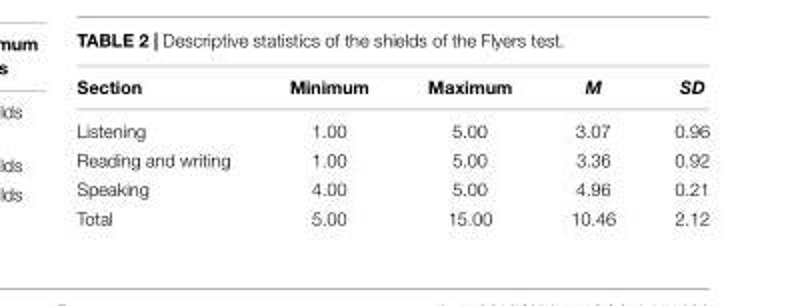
<table><thead><tr><td>Section</td><td>Minimum</td><td>Maximum</td><td>M</td><td>SD</td></tr></thead><tbody><tr><td>Listening</td><td>1.00</td><td>5.00</td><td>3.07</td><td>0.96</td></tr><tr><td>Reading and writing</td><td>1.00</td><td>5.00</td><td>3.36</td><td>0.92</td></tr><tr><td>Speaking</td><td>4.00</td><td>5.00</td><td>4.96</td><td>0.21</td></tr><tr><td>Total</td><td>5.00</td><td>15.00</td><td>10.46</td><td>2.12</td></tr></tbody></table>